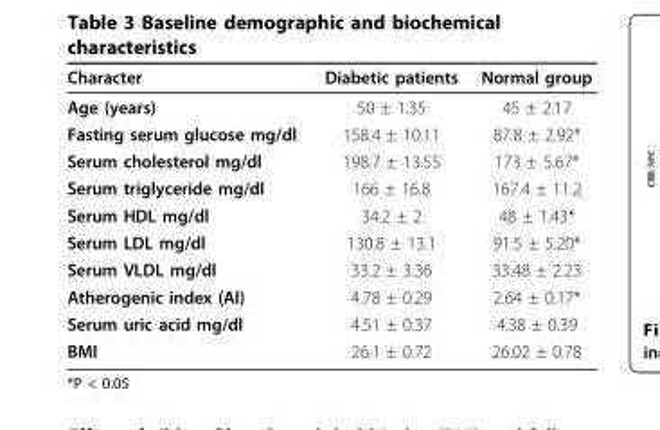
<table><thead><tr><td>Character</td><td>Diabetic patients</td><td>Normal group</td></tr></thead><tbody><tr><td>Age (years)</td><td>50 ± 1.35</td><td>45 ± 2.17</td></tr><tr><td>Fasting serum glucose mg/dl</td><td>158.4 ± 10.11</td><td>87.8 ± 2.92*</td></tr><tr><td>Serum cholesterol mg/dl</td><td>198.7 ± 13.55</td><td>173 ± 5.67*</td></tr><tr><td>Serum triglyceride mg/dl</td><td>166 ± 16.8</td><td>167.4 ± 11.2</td></tr><tr><td>Serum HDL mg/dl</td><td>34.2 ± 2</td><td>48 ± 1.43*</td></tr><tr><td>Serum LDL mg/dl</td><td>130.8 ± 13.1</td><td>91.5 ± 5.20*</td></tr><tr><td>Serum VLDL mg/dl</td><td>33.2 ± 3.36</td><td>33.48 ± 2.23</td></tr><tr><td>Atherogenic index (AI)</td><td>4.78 ± 0.29</td><td>2.64 ± 0.17*</td></tr><tr><td>Serum uric acid mg/dl</td><td>4.51 ± 0.37</td><td>4.38 ± 0.39</td></tr><tr><td>BMI</td><td>26.1 ± 0.72</td><td>26.02 ± 0.78</td></tr></tbody></table>